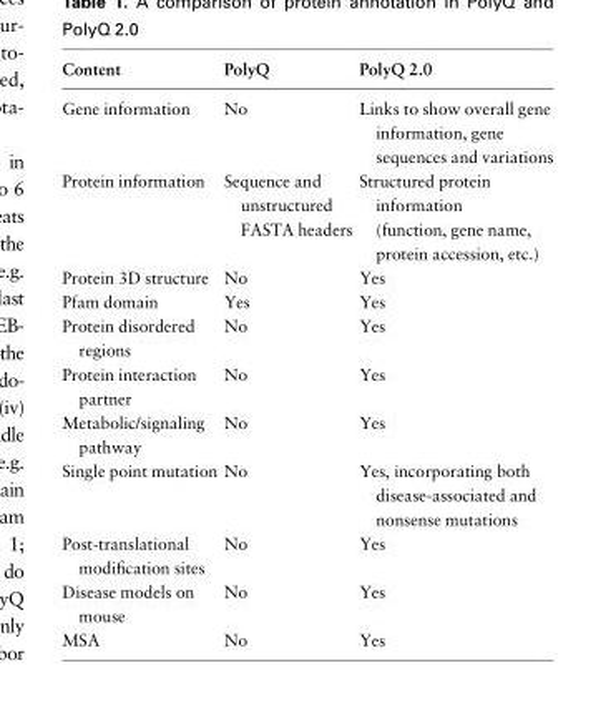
<table><thead><tr><td>Content</td><td>PolyQ</td><td>PolyQ 2.0</td></tr></thead><tbody><tr><td>Gene information</td><td>No</td><td>Links to show overall gene information, gene sequences and variations</td></tr><tr><td>Protein information</td><td>Sequence and unstructured FASTA headers</td><td>Structured protein information (function, gene name, protein accession, etc.)</td></tr><tr><td>Protein 3D structure</td><td>No</td><td>Yes</td></tr><tr><td>Pfam domain</td><td>Yes</td><td>Yes</td></tr><tr><td>Protein disordered regions</td><td>No</td><td>Yes</td></tr><tr><td>Protein interaction partner</td><td>No</td><td>Yes</td></tr><tr><td>Metabolic/signaling pathway</td><td>No</td><td>Yes</td></tr><tr><td>Single point mutation</td><td>No</td><td>Yes, incorporating both disease-associated and nonsense mutations</td></tr><tr><td>Post-translational modification sites</td><td>No</td><td>Yes</td></tr><tr><td>Disease models on mouse</td><td>No</td><td>Yes</td></tr><tr><td>MSA</td><td>No</td><td>Yes</td></tr></tbody></table>